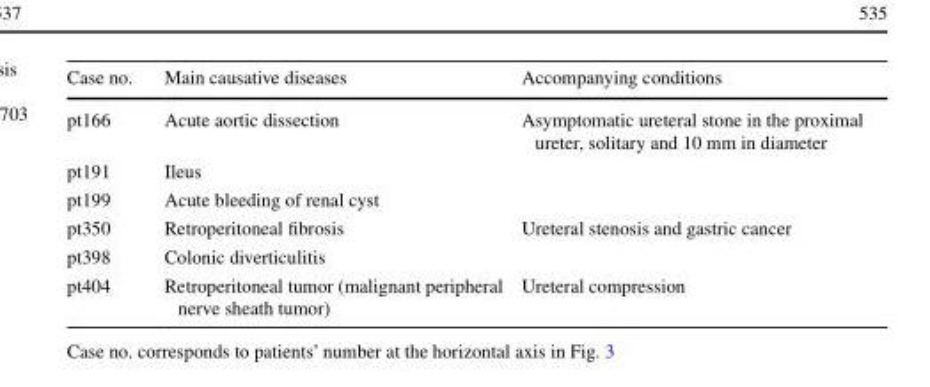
<table><thead><tr><td>Case no.</td><td>Main causative diseases</td><td>Accompanying conditions</td></tr></thead><tbody><tr><td>pt166</td><td>Acute aortic dissection</td><td>Asymptomatic ureteral stone in the proximal ureter, solitary and 10 mm in diameter</td></tr><tr><td>pt191</td><td>Ileus</td><td></td></tr><tr><td>pt199</td><td>Acute bleeding of renal cyst</td><td></td></tr><tr><td>pt350</td><td>Retroperitoneal fibrosis</td><td>Ureteral stenosis and gastric cancer</td></tr><tr><td>pt398</td><td>Colonic diverticulitis</td><td></td></tr><tr><td>pt404</td><td>Retroperitoneal tumor (malignant peripheral nerve sheath tumor)</td><td>Ureteral compression</td></tr></tbody></table>